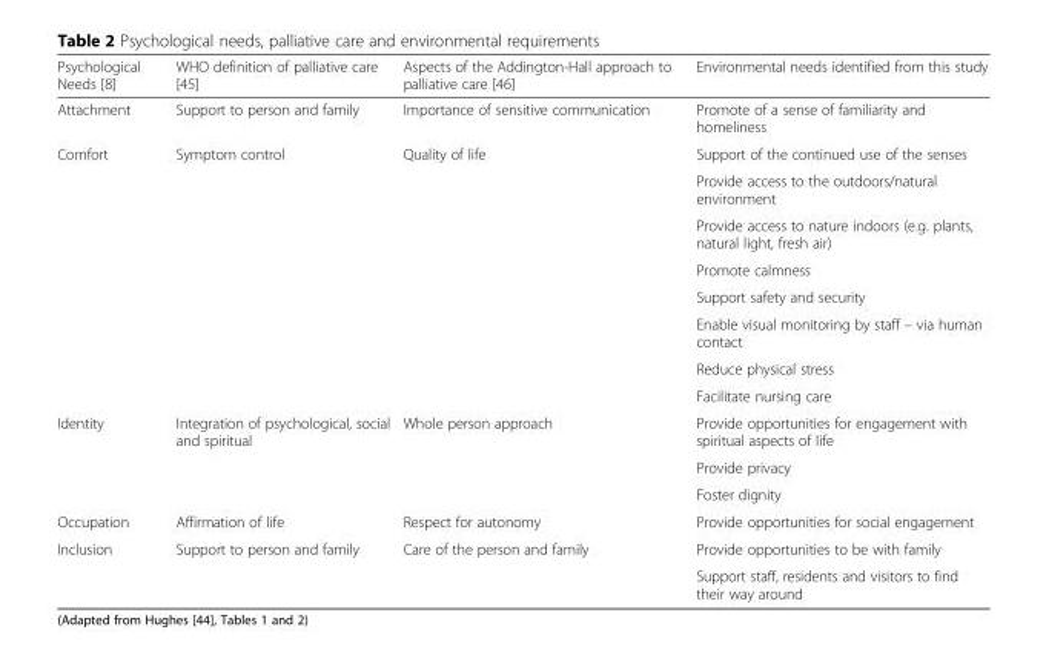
<table><thead><tr><td>Psychological Needs [8]</td><td>WHO definition of palliative care [45]</td><td>Aspects of the Addington-Hall approach to palliative care [46]</td><td>Environmental needs identified from this study</td></tr></thead><tbody><tr><td>Attachment</td><td>Support to person and family</td><td>Importance of sensitive communication</td><td>Promote of a sense of familiarity and homeliness</td></tr><tr><td rowspan="8">Comfort</td><td rowspan="8">Symptom control</td><td rowspan="8">Quality of life</td><td>Support of the continued use of the senses</td></tr><tr><td>Provide access to the outdoors/natural environment</td></tr><tr><td>Provide access to nature indoors (e.g. plants, natural light, fresh air)</td></tr><tr><td>Promote calmness</td></tr><tr><td>Support safety and security</td></tr><tr><td>Enable visual monitoring by staff – via human contact</td></tr><tr><td>Reduce physical stress</td></tr><tr><td>Facilitate nursing care</td></tr><tr><td rowspan="3">Identity</td><td rowspan="3">Integration of psychological, social and spiritual</td><td rowspan="3">Whole person approach</td><td>Provide opportunities for engagement with spiritual aspects of life</td></tr><tr><td>Provide privacy</td></tr><tr><td>Foster dignity</td></tr><tr><td>Occupation</td><td>Affirmation of life</td><td>Respect for autonomy</td><td>Provide opportunities for social engagement</td></tr><tr><td rowspan="2">Inclusion</td><td rowspan="2">Support to person and family</td><td rowspan="2">Care of the person and family</td><td>Provide opportunities to be with family</td></tr><tr><td>Support staff, residents and visitors to find their way around</td></tr></tbody></table>